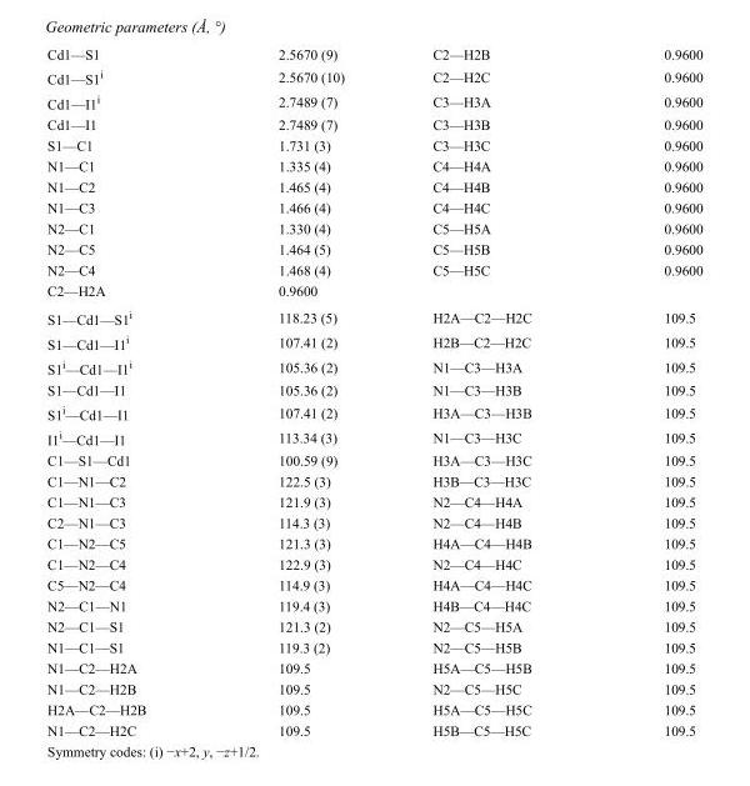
<table><tbody><tr><td>Cd1—S1</td><td>2.5670 (9)</td><td>C2—H2B</td><td>0.9600</td></tr><tr><td>Cd1—S1<sup>i</sup></td><td>2.5670 (10)</td><td>C2—H2C</td><td>0.9600</td></tr><tr><td>Cd1—I1<sup>i</sup></td><td>2.7489 (7)</td><td>C3—H3A</td><td>0.9600</td></tr><tr><td>Cd1—I1</td><td>2.7489 (7)</td><td>C3—H3B</td><td>0.9600</td></tr><tr><td>S1—C1</td><td>1.731 (3)</td><td>C3—H3C</td><td>0.9600</td></tr><tr><td>N1—C1</td><td>1.335 (4)</td><td>C4—H4A</td><td>0.9600</td></tr><tr><td>N1—C2</td><td>1.465 (4)</td><td>C4—H4B</td><td>0.9600</td></tr><tr><td>N1—C3</td><td>1.466 (4)</td><td>C4—H4C</td><td>0.9600</td></tr><tr><td>N2—C1</td><td>1.330 (4)</td><td>C5—H5A</td><td>0.9600</td></tr><tr><td>N2—C5</td><td>1.464 (5)</td><td>C5—H5B</td><td>0.9600</td></tr><tr><td>N2—C4</td><td>1.468 (4)</td><td>C5—H5C</td><td>0.9600</td></tr><tr><td>C2—H2A</td><td>0.9600</td><td></td><td></td></tr><tr><td>S1—Cd1—S1<sup>i</sup></td><td>118.23 (5)</td><td>H2A—C2—H2C</td><td>109.5</td></tr><tr><td>S1—Cd1—I1<sup>i</sup></td><td>107.41 (2)</td><td>H2B—C2—H2C</td><td>109.5</td></tr><tr><td>S1<sup>i</sup>—Cd1—I1<sup>i</sup></td><td>105.36 (2)</td><td>N1—C3—H3A</td><td>109.5</td></tr><tr><td>S1—Cd1—I1</td><td>105.36 (2)</td><td>N1—C3—H3B</td><td>109.5</td></tr><tr><td>S1<sup>i</sup>—Cd1—I1</td><td>107.41 (2)</td><td>H3A—C3—H3B</td><td>109.5</td></tr><tr><td>I1<sup>i</sup>—Cd1—I1</td><td>113.34 (3)</td><td>N1—C3—H3C</td><td>109.5</td></tr><tr><td>C1—S1—Cd1</td><td>100.59 (9)</td><td>H3A—C3—H3C</td><td>109.5</td></tr><tr><td>C1—N1—C2</td><td>122.5 (3)</td><td>H3B—C3—H3C</td><td>109.5</td></tr><tr><td>C1—N1—C3</td><td>121.9 (3)</td><td>N2—C4—H4A</td><td>109.5</td></tr><tr><td>C2—N1—C3</td><td>114.3 (3)</td><td>N2—C4—H4B</td><td>109.5</td></tr><tr><td>C1—N2—C5</td><td>121.3 (3)</td><td>H4A—C4—H4B</td><td>109.5</td></tr><tr><td>C1—N2—C4</td><td>122.9 (3)</td><td>N2—C4—H4C</td><td>109.5</td></tr><tr><td>C5—N2—C4</td><td>114.9 (3)</td><td>H4A—C4—H4C</td><td>109.5</td></tr><tr><td>N2—C1—N1</td><td>119.4 (3)</td><td>H4B—C4—H4C</td><td>109.5</td></tr><tr><td>N2—C1—S1</td><td>121.3 (2)</td><td>N2—C5—H5A</td><td>109.5</td></tr><tr><td>N1—C1—S1</td><td>119.3 (2)</td><td>N2—C5—H5B</td><td>109.5</td></tr><tr><td>N1—C2—H2A</td><td>109.5</td><td>H5A—C5—H5B</td><td>109.5</td></tr><tr><td>N1—C2—H2B</td><td>109.5</td><td>N2—C5—H5C</td><td>109.5</td></tr><tr><td>H2A—C2—H2B</td><td>109.5</td><td>H5A—C5—H5C</td><td>109.5</td></tr><tr><td>N1—C2—H2C</td><td>109.5</td><td>H5B—C5—H5C</td><td>109.5</td></tr></tbody></table>